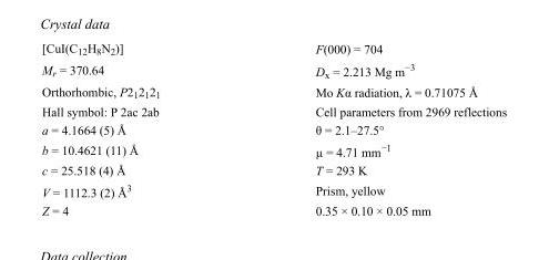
<table><tbody><tr><td>[CuI(C<sub>12</sub>H<sub>8</sub>N<sub>2</sub>)]</td><td>F(000) = 704</td></tr><tr><td>M<sub>r</sub> = 370.64</td><td>D<sub>x</sub> = 2.213 Mg m<sup>−3</sup></td></tr><tr><td>Orthorhombic, P2<sub>1</sub>2<sub>1</sub>2<sub>1</sub></td><td>Mo Kα radiation, λ = 0.71075 Å</td></tr><tr><td>Hall symbol: P 2ac 2ab</td><td>Cell parameters from 2969 reflections</td></tr><tr><td>a = 4.1664 (5) Å</td><td>θ = 2.1–27.5°</td></tr><tr><td>b = 10.4621 (11) Å</td><td>µ = 4.71 mm<sup>−1</sup></td></tr><tr><td>c = 25.518 (4) Å</td><td>T = 293 K</td></tr><tr><td>V = 1112.3 (2) Å<sup>3</sup></td><td>Prism, yellow</td></tr><tr><td>Z = 4</td><td>0.35 × 0.10 × 0.05 mm</td></tr></tbody></table>